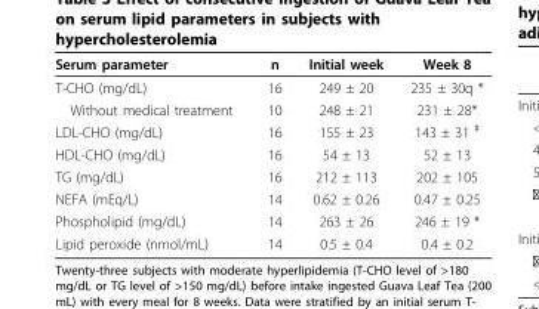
<table><thead><tr><td>Serum parameter</td><td>n</td><td>Initial week</td><td>Week 8</td></tr></thead><tbody><tr><td>T-CHO (mg/dL)</td><td>16</td><td>249 ± 20</td><td>235 ± 30q *</td></tr><tr><td>Without medical treatment</td><td>10</td><td>248 ± 21</td><td>231 ± 28*</td></tr><tr><td>LDL-CHO (mg/dL)</td><td>16</td><td>155 ± 23</td><td>143 ± 31 <sup>#</sup></td></tr><tr><td>HDL-CHO (mg/dL)</td><td>16</td><td>54 ± 13</td><td>52 ± 13</td></tr><tr><td>TG (mg/dL)</td><td>16</td><td>212 ± 113</td><td>202 ± 105</td></tr><tr><td>NEFA (mEq/L)</td><td>14</td><td>0.62 ± 0.26</td><td>0.47 ± 0.25</td></tr><tr><td>Phospholipid (mg/dL)</td><td>14</td><td>263 ± 26</td><td>246 ± 19 *</td></tr><tr><td>Lipid peroxide (nmol/mL)</td><td>14</td><td>0.5 ± 0.4</td><td>0.4 ± 0.2</td></tr></tbody></table>